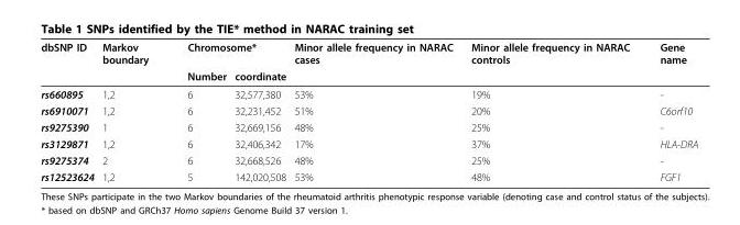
<table><thead><tr><td rowspan="2">dbSNP ID</td><td rowspan="2">Markov boundary</td><td colspan="2">Chromosome*</td><td rowspan="2">Minor allele frequency in NARAC cases</td><td rowspan="2">Minor allele frequency in NARAC controls</td><td rowspan="2">Gene name</td></tr><tr><td>Number</td><td>coordinate</td></tr></thead><tbody><tr><td>rs660895</td><td>1,2</td><td>6</td><td>32,577,380</td><td>53%</td><td>19%</td><td>-</td></tr><tr><td>rs6910071</td><td>1,2</td><td>6</td><td>32,231,452</td><td>51%</td><td>20%</td><td>C6orf10</td></tr><tr><td>rs9275390</td><td>1</td><td>6</td><td>32,669,156</td><td>48%</td><td>25%</td><td>-</td></tr><tr><td>rs3129871</td><td>1,2</td><td>6</td><td>32,406,342</td><td>17%</td><td>37%</td><td>HLA-DRA</td></tr><tr><td>rs9275374</td><td>2</td><td>6</td><td>32,668,526</td><td>48%</td><td>25%</td><td>-</td></tr><tr><td>rs12523624</td><td>1,2</td><td>5</td><td>142,020,508</td><td>53%</td><td>48%</td><td>FGF1</td></tr></tbody></table>